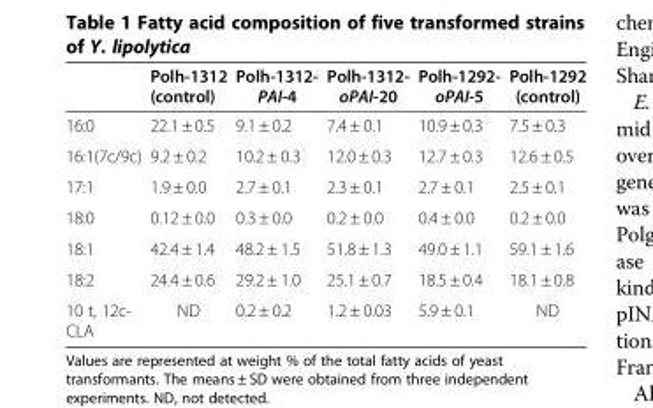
<table><thead><tr><td></td><td>Polh-1312 (control)</td><td>Polh-1312- PAI-4</td><td>Polh-1312- oPAI-20</td><td>Polh-1292- oPAI-5</td><td>Polh-1292 (control)</td></tr></thead><tbody><tr><td>16:0</td><td>22.1 ± 0.5</td><td>9.1 ± 0.2</td><td>7.4 ± 0.1</td><td>10.9 ± 0.3</td><td>7.5 ± 0.3</td></tr><tr><td>16:1(7c/9c)</td><td>9.2 ± 0.2</td><td>10.2 ± 0.3</td><td>12.0 ± 0.3</td><td>12.7 ± 0.3</td><td>12.6 ± 0.5</td></tr><tr><td>17:1</td><td>1.9 ± 0.0</td><td>2.7 ± 0.1</td><td>2.3 ± 0.1</td><td>2.7 ± 0.1</td><td>2.5 ± 0.1</td></tr><tr><td>18:0</td><td>0.12 ± 0.0</td><td>0.3 ± 0.0</td><td>0.2 ± 0.0</td><td>0.4 ± 0.0</td><td>0.2 ± 0.0</td></tr><tr><td>18:1</td><td>42.4 ± 1.4</td><td>48.2 ± 1.5</td><td>51.8 ± 1.3</td><td>49.0 ± 1.1</td><td>59.1 ± 1.6</td></tr><tr><td>18:2</td><td>24.4 ± 0.6</td><td>29.2 ± 1.0</td><td>25.1 ± 0.7</td><td>18.5 ± 0.4</td><td>18.1 ± 0.8</td></tr><tr><td>10 t, 12c- CLA</td><td>ND</td><td>0.2 ± 0.2</td><td>1.2 ± 0.03</td><td>5.9 ± 0.1</td><td>ND</td></tr></tbody></table>